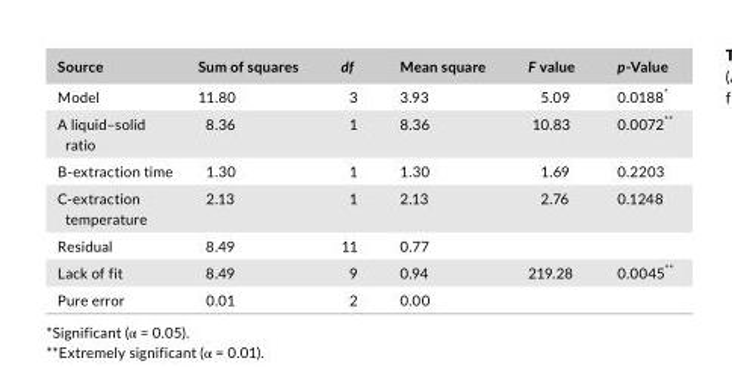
<table><thead><tr><td>Source</td><td>Sum of squares</td><td>df</td><td>Mean square</td><td>F value</td><td>p- Value</td></tr></thead><tbody><tr><td>Model</td><td>11.80</td><td>3</td><td>3.93</td><td>5.09</td><td>0.0188*</td></tr><tr><td>A liquid–solid ratio</td><td>8.36</td><td>1</td><td>8.36</td><td>10.83</td><td>0.0072**</td></tr><tr><td>B- extraction time</td><td>1.30</td><td>1</td><td>1.30</td><td>1.69</td><td>0.2203</td></tr><tr><td>C- extraction temperature</td><td>2.13</td><td>1</td><td>2.13</td><td>2.76</td><td>0.1248</td></tr><tr><td>Residual</td><td>8.49</td><td>11</td><td>0.77</td><td></td><td></td></tr><tr><td>Lack of fit</td><td>8.49</td><td>9</td><td>0.94</td><td>219.28</td><td>0.0045**</td></tr><tr><td>Pure error</td><td>0.01</td><td>2</td><td>0.00</td><td></td><td></td></tr></tbody></table>